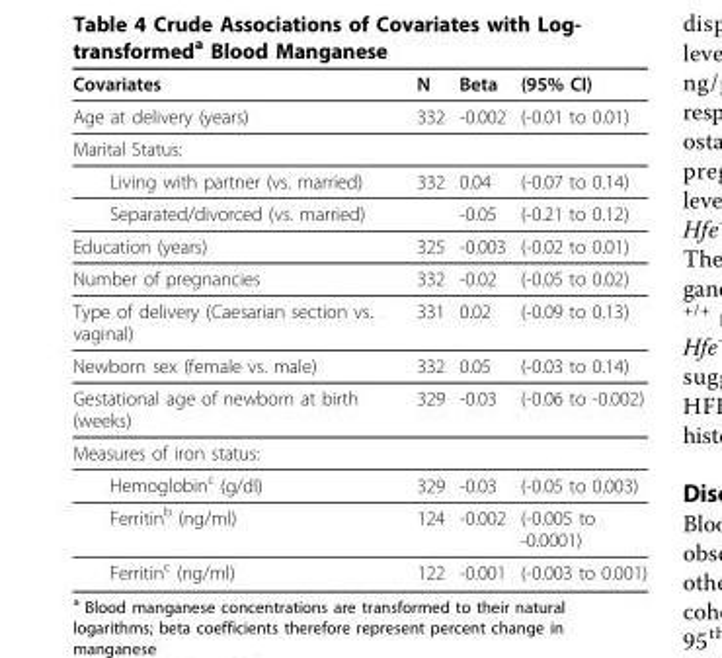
<table><thead><tr><td>Covariates</td><td>N</td><td>Beta</td><td>(95% CI)</td></tr></thead><tbody><tr><td>Age at delivery (years)</td><td>332</td><td>-0.002</td><td>(-0.01 to 0.01)</td></tr><tr><td colspan="4">Marital Status:</td></tr><tr><td>Living with partner (vs. married)</td><td>332</td><td>0.04</td><td>(-0.07 to 0.14)</td></tr><tr><td>Separated/divorced (vs. married)</td><td></td><td>-0.05</td><td>(-0.21 to 0.12)</td></tr><tr><td>Education (years)</td><td>325</td><td>-0.003</td><td>(-0.02 to 0.01)</td></tr><tr><td>Number of pregnancies</td><td>332</td><td>-0.02</td><td>(-0.05 to 0.02)</td></tr><tr><td>Type of delivery (Caesarian section vs. vaginal)</td><td>331</td><td>0.02</td><td>(-0.09 to 0.13)</td></tr><tr><td>Newborn sex (female vs. male)</td><td>332</td><td>0.05</td><td>(-0.03 to 0.14)</td></tr><tr><td>Gestational age of newborn at birth (weeks)</td><td>329</td><td>-0.03</td><td>(-0.06 to -0.002)</td></tr><tr><td colspan="4">Measures of iron status:</td></tr><tr><td>Hemoglobin<sup>c</sup> (g/dl)</td><td>329</td><td>-0.03</td><td>(-0.05 to 0.003)</td></tr><tr><td>Ferritin<sup>b</sup> (ng/ml)</td><td>124</td><td>-0.002</td><td>(-0.005 to -0.0001)</td></tr><tr><td>Ferritin<sup>c</sup> (ng/ml)</td><td>122</td><td>-0.001</td><td>(-0.003 to 0.001)</td></tr></tbody></table>